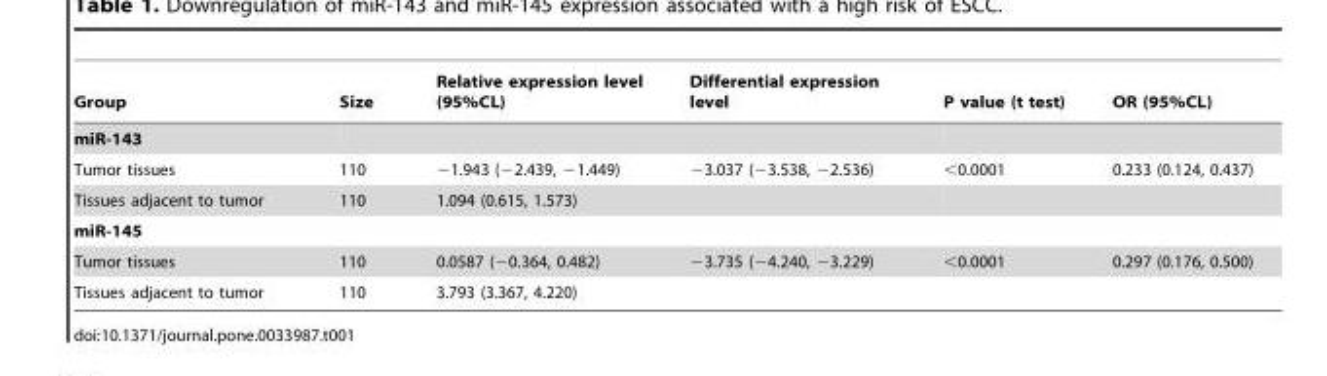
<table><thead><tr><td>Group</td><td>Size</td><td>Relative expression level (95%CL)</td><td>Differential expression level</td><td>P value (t test)</td><td>OR (95%CL)</td></tr></thead><tbody><tr><td colspan="6">miR-143</td></tr><tr><td>Tumor tissues</td><td>110</td><td>−1.943 (−2.439, −1.449)</td><td>−3.037 (−3.538, −2.536)</td><td>&lt;0.0001</td><td>0.233 (0.124, 0.437)</td></tr><tr><td>Tissues adjacent to tumor</td><td>110</td><td>1.094 (0.615, 1.573)</td><td></td><td></td><td></td></tr><tr><td colspan="6">miR-145</td></tr><tr><td>Tumor tissues</td><td>110</td><td>0.0587 (−0.364, 0.482)</td><td>−3.735 (−4.240, −3.229)</td><td>&lt;0.0001</td><td>0.297 (0.176, 0.500)</td></tr><tr><td>Tissues adjacent to tumor</td><td>110</td><td>3.793 (3.367, 4.220)</td><td></td><td></td><td></td></tr></tbody></table>